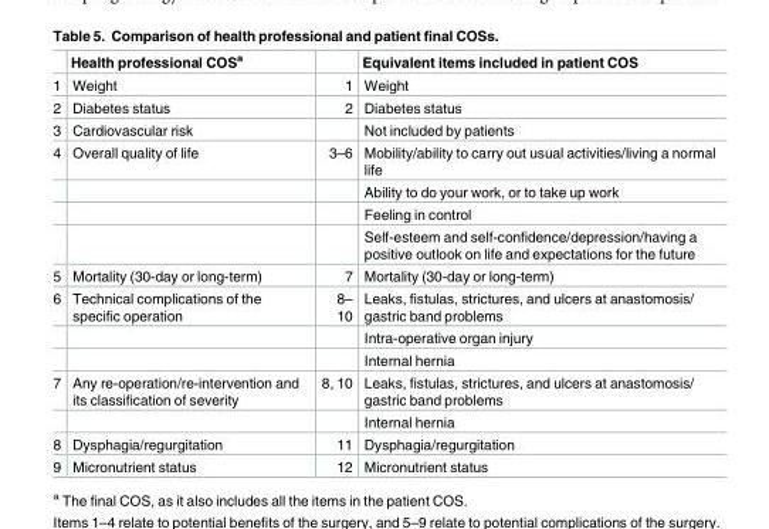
<table><thead><tr><td></td><td>Health professional COS<sup>a</sup></td><td></td><td>Equivalent items included in patient COS</td></tr></thead><tbody><tr><td>1</td><td>Weight</td><td>1</td><td>Weight</td></tr><tr><td>2</td><td>Diabetes status</td><td>2</td><td>Diabetes status</td></tr><tr><td>3</td><td>Cardiovascular risk</td><td></td><td>Not included by patients</td></tr><tr><td rowspan="4">4</td><td>Overall quality of life</td><td>3–6</td><td>Mobility/ability to carry out usual activities/living a normal life</td></tr><tr><td></td><td></td><td>Ability to do your work, or to take up work</td></tr><tr><td></td><td></td><td>Feeling in control</td></tr><tr><td></td><td></td><td>Self-esteem and self-confidence/depression/having a positive outlook on life and expectations for the future</td></tr><tr><td>5</td><td>Mortality (30-day or long-term)</td><td>7</td><td>Mortality (30-day or long-term)</td></tr><tr><td rowspan="3">6</td><td>Technical complications of the specific operation</td><td>8– 10</td><td>Leaks, fistulas, strictures, and ulcers at anastomosis/ gastric band problems</td></tr><tr><td></td><td></td><td>Intra-operative organ injury</td></tr><tr><td></td><td></td><td>Internal hernia</td></tr><tr><td rowspan="2">7</td><td>Any re-operation/re-intervention and its classification of severity</td><td>8, 10</td><td>Leaks, fistulas, strictures, and ulcers at anastomosis/ gastric band problems</td></tr><tr><td></td><td></td><td>Internal hernia</td></tr><tr><td>8</td><td>Dysphagia/regurgitation</td><td>11</td><td>Dysphagia/regurgitation</td></tr><tr><td>9</td><td>Micronutrient status</td><td>12</td><td>Micronutrient status</td></tr></tbody></table>